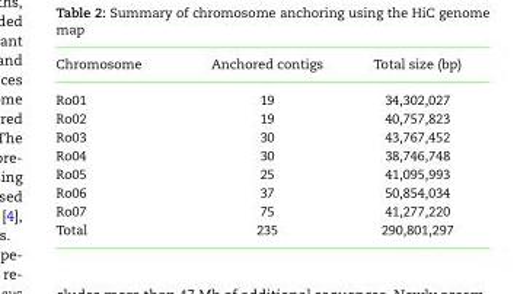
<table><thead><tr><td>Chromosome</td><td>Anchored contigs</td><td>Total size (bp)</td></tr></thead><tbody><tr><td>Ro01</td><td>19</td><td>34,302,027</td></tr><tr><td>Ro02</td><td>19</td><td>40,757,823</td></tr><tr><td>Ro03</td><td>30</td><td>43,767,452</td></tr><tr><td>Ro04</td><td>30</td><td>38,746,748</td></tr><tr><td>Ro05</td><td>25</td><td>41,095,993</td></tr><tr><td>Ro06</td><td>37</td><td>50,854,034</td></tr><tr><td>Ro07</td><td>75</td><td>41,277,220</td></tr><tr><td>Total</td><td>235</td><td>290,801,297</td></tr></tbody></table>